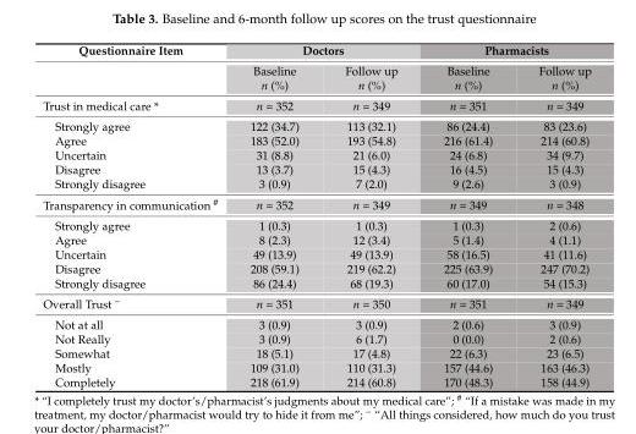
<table><thead><tr><td rowspan="2">Questionnaire Item</td><td colspan="2">Doctors</td><td colspan="2">Pharmacists</td></tr><tr><td>Baseline n (%)</td><td>Follow up n (%)</td><td>Baseline n (%)</td><td>Follow up n (%)</td></tr></thead><tbody><tr><td>Trust in medical care *</td><td>n = 352</td><td>n = 349</td><td>n = 351</td><td>n = 349</td></tr><tr><td>Strongly agree</td><td>122 (34.7)</td><td>113 (32.1)</td><td>86 (24.4)</td><td>83 (23.6)</td></tr><tr><td>Agree</td><td>183 (52.0)</td><td>193 (54.8)</td><td>216 (61.4)</td><td>214 (60.8)</td></tr><tr><td>Uncertain</td><td>31 (8.8)</td><td>21 (6.0)</td><td>24 (6.8)</td><td>34 (9.7)</td></tr><tr><td>Disagree</td><td>13 (3.7)</td><td>15 (4.3)</td><td>16 (4.5)</td><td>15 (4.3)</td></tr><tr><td>Strongly disagree</td><td>3 (0.9)</td><td>7 (2.0)</td><td>9 (2.6)</td><td>3 (0.9)</td></tr><tr><td>Transparency in communication <sup>#</sup></td><td>n = 352</td><td>n = 349</td><td>n = 349</td><td>n = 348</td></tr><tr><td>Strongly agree</td><td>1 (0.3)</td><td>1 (0.3)</td><td>1 (0.3)</td><td>2 (0.6)</td></tr><tr><td>Agree</td><td>8 (2.3)</td><td>12 (3.4)</td><td>5 (1.4)</td><td>4 (1.1)</td></tr><tr><td>Uncertain</td><td>49 (13.9)</td><td>49 (13.9)</td><td>58 (16.5)</td><td>41 (11.6)</td></tr><tr><td>Disagree</td><td>208 (59.1)</td><td>219 (62.2)</td><td>225 (63.9)</td><td>247 (70.2)</td></tr><tr><td>Strongly disagree</td><td>86 (24.4)</td><td>68 (19.3)</td><td>60 (17.0)</td><td>54 (15.3)</td></tr><tr><td>Overall Trust <sup>~</sup></td><td>n = 351</td><td>n = 350</td><td>n = 351</td><td>n = 349</td></tr><tr><td>Not at all</td><td>3 (0.9)</td><td>3 (0.9)</td><td>2 (0.6)</td><td>3 (0.9)</td></tr><tr><td>Not Really</td><td>3 (0.9)</td><td>6 (1.7)</td><td>0 (0.0)</td><td>2 (0.6)</td></tr><tr><td>Somewhat</td><td>18 (5.1)</td><td>17 (4.8)</td><td>22 (6.3)</td><td>23 (6.5)</td></tr><tr><td>Mostly</td><td>109 (31.0)</td><td>110 (31.3)</td><td>157 (44.6)</td><td>163 (46.3)</td></tr><tr><td>Completely</td><td>218 (61.9)</td><td>214 (60.8)</td><td>170 (48.3)</td><td>158 (44.9)</td></tr></tbody></table>